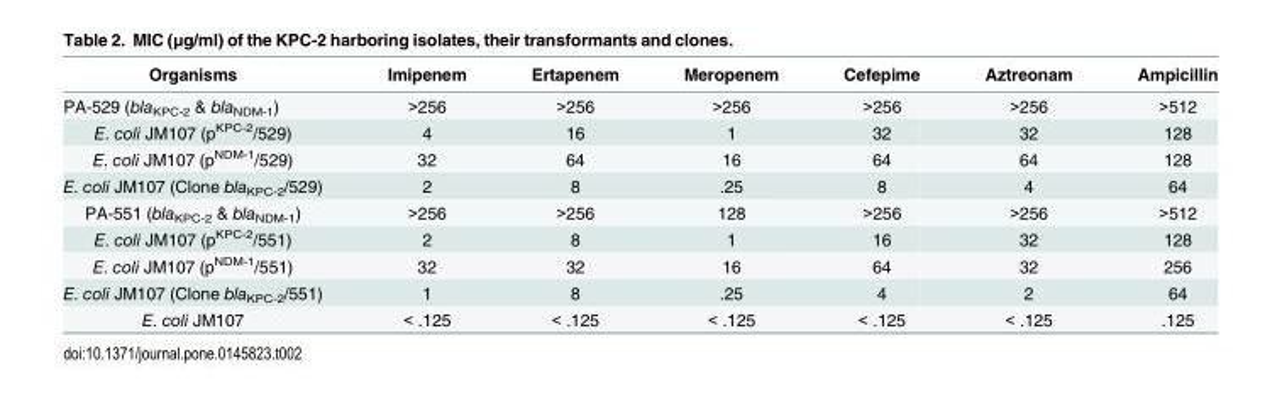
<table><thead><tr><td>Organisms</td><td>Imipenem</td><td>Ertapenem</td><td>Meropenem</td><td>Cefepime</td><td>Aztreonam</td><td>Ampicillin</td></tr></thead><tbody><tr><td>PA-529 (bla<sub>KPC-2</sub> &amp; bla<sub>NDM-1</sub>)</td><td>&gt;256</td><td>&gt;256</td><td>&gt;256</td><td>&gt;256</td><td>&gt;256</td><td>&gt;512</td></tr><tr><td>E. coli JM107 (p<sup>KPC-2</sup>/529)</td><td>4</td><td>16</td><td>1</td><td>32</td><td>32</td><td>128</td></tr><tr><td>E. coli JM107 (p<sup>NDM-1</sup>/529)</td><td>32</td><td>64</td><td>16</td><td>64</td><td>64</td><td>128</td></tr><tr><td>E. coli JM107 (Clone bla<sub>KPC-2</sub>/529)</td><td>2</td><td>8</td><td>.25</td><td>8</td><td>4</td><td>64</td></tr><tr><td>PA-551 (bla<sub>KPC-2</sub> &amp; bla<sub>NDM-1</sub>)</td><td>&gt;256</td><td>&gt;256</td><td>128</td><td>&gt;256</td><td>&gt;256</td><td>&gt;512</td></tr><tr><td>E. coli JM107 (p<sup>KPC-2</sup>/551)</td><td>2</td><td>8</td><td>1</td><td>16</td><td>32</td><td>128</td></tr><tr><td>E. coli JM107 (p<sup>NDM-1</sup>/551)</td><td>32</td><td>32</td><td>16</td><td>64</td><td>32</td><td>256</td></tr><tr><td>E. coli JM107 (Clone bla<sub>KPC-2</sub>/551)</td><td>1</td><td>8</td><td>.25</td><td>4</td><td>2</td><td>64</td></tr><tr><td>E. coli JM107</td><td>&lt; .125</td><td>&lt; .125</td><td>&lt; .125</td><td>&lt; .125</td><td>&lt; .125</td><td>.125</td></tr></tbody></table>